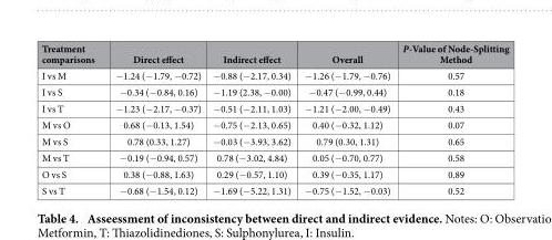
<table><thead><tr><td>Treatment comparisons</td><td>Direct effect</td><td>Indirect effect</td><td>Overall</td><td>P-Value of Node-Splitting Method</td></tr></thead><tbody><tr><td>I vs M</td><td>− 1.24 (− 1.79, − 0.72)</td><td>− 0.88 (− 2.17, 0.34)</td><td>− 1.26 (− 1.79, − 0.76)</td><td>0.57</td></tr><tr><td>I vs S</td><td>− 0.34 (− 0.84, 0.16)</td><td>− 1.19 (2.38, − 0.00)</td><td>− 0.47 (− 0.99, 0.44)</td><td>0.18</td></tr><tr><td>I vs T</td><td>− 1.23 (− 2.17, − 0.37)</td><td>− 0.51 (− 2.11, 1.03)</td><td>− 1.21 (− 2.00, − 0.49)</td><td>0.43</td></tr><tr><td>M vs O</td><td>0.68 (− 0.13, 1.54)</td><td>− 0.75 (− 2.13, 0.65)</td><td>0.40 (− 0.32, 1.12)</td><td>0.07</td></tr><tr><td>M vs S</td><td>0.78 (0.33, 1.27)</td><td>− 0.03 (− 3.93, 3.62)</td><td>0.79 (0.30, 1.31)</td><td>0.65</td></tr><tr><td>M vs T</td><td>− 0.19 (− 0.94, 0.57)</td><td>0.78 (− 3.02, 4.84)</td><td>0.05 (− 0.70, 0.77)</td><td>0.58</td></tr><tr><td>O vs S</td><td>0.38 (− 0.88, 1.63)</td><td>0.29 (− 0.57, 1.10)</td><td>0.39 (− 0.35, 1.17)</td><td>0.89</td></tr><tr><td>S vs T</td><td>− 0.68 (− 1.54, 0.12)</td><td>− 1.69 (− 5.22, 1.31)</td><td>− 0.75 (− 1.52, − 0.03)</td><td>0.52</td></tr></tbody></table>